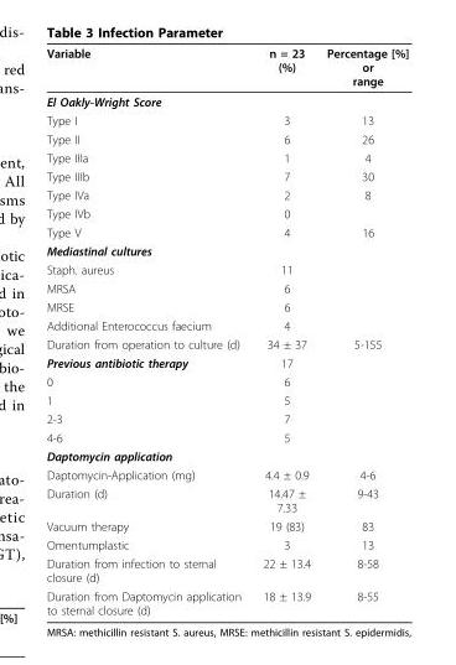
<table><thead><tr><td>Variable</td><td>n = 23 (%)</td><td>Percentage [%] or range</td></tr></thead><tbody><tr><td colspan="3">El Oakly-Wright Score</td></tr><tr><td>Type I</td><td>3</td><td>13</td></tr><tr><td>Type II</td><td>6</td><td>26</td></tr><tr><td>Type IIIa</td><td>1</td><td>4</td></tr><tr><td>Type IIIb</td><td>7</td><td>30</td></tr><tr><td>Type IVa</td><td>2</td><td>8</td></tr><tr><td>Type IVb</td><td>0</td><td></td></tr><tr><td>Type V</td><td>4</td><td>16</td></tr><tr><td colspan="3">Mediastinal cultures</td></tr><tr><td>Staph. aureus</td><td>11</td><td></td></tr><tr><td>MRSA</td><td>6</td><td></td></tr><tr><td>MRSE</td><td>6</td><td></td></tr><tr><td>Additional Enterococcus faecium</td><td>4</td><td></td></tr><tr><td>Duration from operation to culture (d)</td><td>34 ± 37</td><td>5-155</td></tr><tr><td>Previous antibiotic therapy</td><td>17</td><td></td></tr><tr><td>0</td><td>6</td><td></td></tr><tr><td>1</td><td>5</td><td></td></tr><tr><td>2-3</td><td>7</td><td></td></tr><tr><td>4-6</td><td>5</td><td></td></tr><tr><td colspan="3">Daptomycin application</td></tr><tr><td>Daptomycin-Application (mg)</td><td>4.4 ± 0.9</td><td>4-6</td></tr><tr><td>Duration (d)</td><td>14.47 ± 7.33</td><td>9-43</td></tr><tr><td>Vacuum therapy</td><td>19 (83)</td><td>83</td></tr><tr><td>Omentumplastic</td><td>3</td><td>13</td></tr><tr><td>Duration from infection to sternal closure (d)</td><td>22 ± 13.4</td><td>8-58</td></tr><tr><td>Duration from Daptomycin application to sternal closure (d)</td><td>18 ± 13.9</td><td>8-55</td></tr></tbody></table>